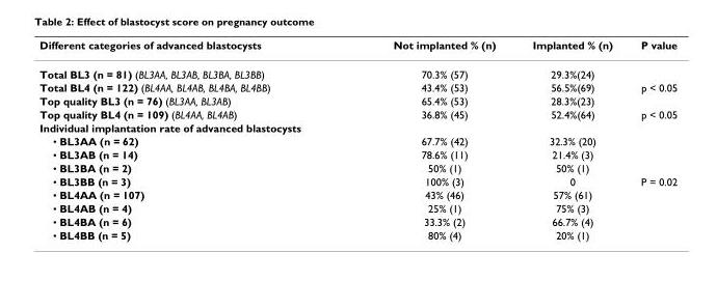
<table><thead><tr><td>Different categories of advanced blastocysts</td><td>Not implanted % (n)</td><td>Implanted % (n)</td><td>P value</td></tr></thead><tbody><tr><td>Total BL3 (n = 81) (BL3AA, BL3AB, BL3BA, BL3BB)</td><td>70.3% (57)</td><td>29.3%(24)</td><td></td></tr><tr><td>Total BL4 (n = 122) (BL4AA, BL4AB, BL4BA, BL4BB)</td><td>43.4% (53)</td><td>56.5%(69)</td><td>p &lt; 0.05</td></tr><tr><td>Top quality BL3 (n = 76) (BL3AA, BL3AB)</td><td>65.4% (53)</td><td>28.3%(23)</td><td></td></tr><tr><td>Top quality BL4 (n = 109) (BL4AA, BL4AB)</td><td>36.8% (45)</td><td>52.4%(64)</td><td>p &lt; 0.05</td></tr><tr><td colspan="4">Individual implantation rate of advanced blastocysts</td></tr><tr><td>• BL3AA (n = 62)</td><td>67.7% (42)</td><td>32.3% (20)</td><td></td></tr><tr><td>• BL3AB (n = 14)</td><td>78.6% (11)</td><td>21.4% (3)</td><td></td></tr><tr><td>• BL3BA (n = 2)</td><td>50% (1)</td><td>50% (1)</td><td></td></tr><tr><td>• BL3BB (n = 3)</td><td>100% (3)</td><td>0</td><td>P = 0.02</td></tr><tr><td>• BL4AA (n = 107)</td><td>43% (46)</td><td>57% (61)</td><td></td></tr><tr><td>• BL4AB (n = 4)</td><td>25% (1)</td><td>75% (3)</td><td></td></tr><tr><td>• BL4BA (n = 6)</td><td>33.3% (2)</td><td>66.7% (4)</td><td></td></tr><tr><td>• BL4BB (n = 5)</td><td>80% (4)</td><td>20% (1)</td><td></td></tr></tbody></table>